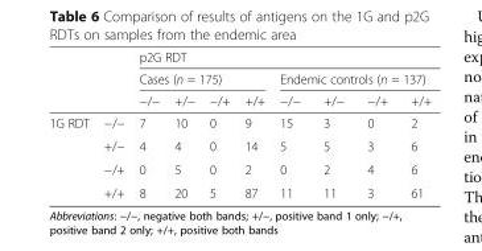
<table><thead><tr><td rowspan="3"></td><td rowspan="3"></td><td colspan="8">p2G RDT</td></tr><tr><td colspan="4">Cases (n = 175)</td><td colspan="4">Endemic controls (n = 137)</td></tr><tr><td>−/−</td><td>+/−</td><td>−/+</td><td>+/+</td><td>−/−</td><td>+/−</td><td>−/+</td><td>+/+</td></tr></thead><tbody><tr><td rowspan="4">1G RDT</td><td>−/−</td><td>7</td><td>10</td><td>0</td><td>9</td><td>15</td><td>3</td><td>0</td><td>2</td></tr><tr><td>+/−</td><td>4</td><td>4</td><td>0</td><td>14</td><td>5</td><td>5</td><td>3</td><td>6</td></tr><tr><td>−/+</td><td>0</td><td>5</td><td>0</td><td>2</td><td>0</td><td>2</td><td>4</td><td>6</td></tr><tr><td>+/+</td><td>8</td><td>20</td><td>5</td><td>87</td><td>11</td><td>11</td><td>3</td><td>61</td></tr></tbody></table>